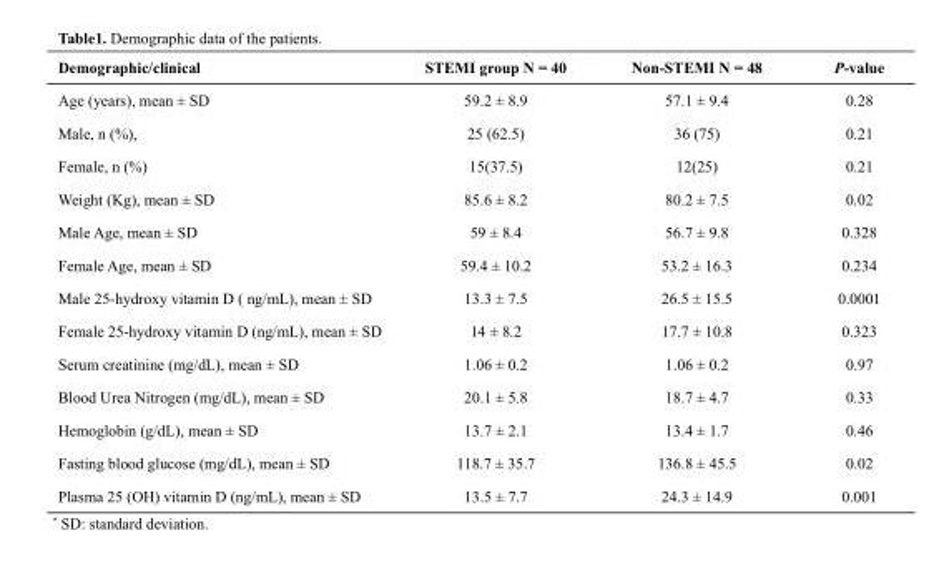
<table><thead><tr><td>Demographic/clinical</td><td>STEMI group N = 40</td><td>Non-STEMI N = 48</td><td>P-value</td></tr></thead><tbody><tr><td>Age (years), mean ± SD</td><td>59.2 ± 8.9</td><td>57.1 ± 9.4</td><td>0.28</td></tr><tr><td>Male, n (%),</td><td>25 (62.5)</td><td>36 (75)</td><td>0.21</td></tr><tr><td>Female, n (%)</td><td>15(37.5)</td><td>12(25)</td><td>0.21</td></tr><tr><td>Weight (Kg), mean ± SD</td><td>85.6 ± 8.2</td><td>80.2 ± 7.5</td><td>0.02</td></tr><tr><td>Male Age, mean ± SD</td><td>59 ± 8.4</td><td>56.7 ± 9.8</td><td>0.328</td></tr><tr><td>Female Age, mean ± SD</td><td>59.4 ± 10.2</td><td>53.2 ± 16.3</td><td>0.234</td></tr><tr><td>Male 25-hydroxy vitamin D ( ng/mL), mean ± SD</td><td>13.3 ± 7.5</td><td>26.5 ± 15.5</td><td>0.0001</td></tr><tr><td>Female 25-hydroxy vitamin D (ng/mL), mean ± SD</td><td>14 ± 8.2</td><td>17.7 ± 10.8</td><td>0.323</td></tr><tr><td>Serum creatinine (mg/dL), mean ± SD</td><td>1.06 ± 0.2</td><td>1.06 ± 0.2</td><td>0.97</td></tr><tr><td>Blood Urea Nitrogen (mg/dL), mean ± SD</td><td>20.1 ± 5.8</td><td>18.7 ± 4.7</td><td>0.33</td></tr><tr><td>Hemoglobin (g/dL), mean ± SD</td><td>13.7 ± 2.1</td><td>13.4 ± 1.7</td><td>0.46</td></tr><tr><td>Fasting blood glucose (mg/dL), mean ± SD</td><td>118.7 ± 35.7</td><td>136.8 ± 45.5</td><td>0.02</td></tr><tr><td>Plasma 25 (OH) vitamin D (ng/mL), mean ± SD</td><td>13.5 ± 7.7</td><td>24.3 ± 14.9</td><td>0.001</td></tr></tbody></table>